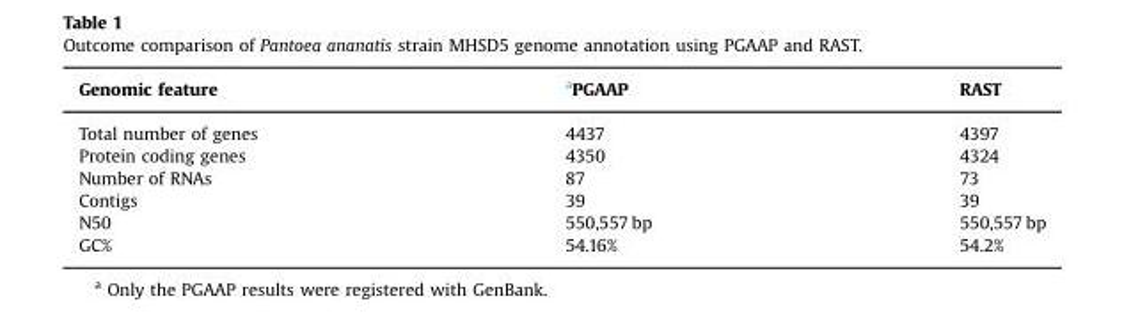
<table><thead><tr><td>Genomic feature</td><td>aPGAAP</td><td>RAST</td></tr></thead><tbody><tr><td>Total number of genes</td><td>4437</td><td>4397</td></tr><tr><td>Protein coding genes</td><td>4350</td><td>4324</td></tr><tr><td>Number of RNAs</td><td>87</td><td>73</td></tr><tr><td>Contigs</td><td>39</td><td>39</td></tr><tr><td>N50</td><td>550,557 bp</td><td>550,557 bp</td></tr><tr><td>GC%</td><td>54.16%</td><td>54.2%</td></tr></tbody></table>